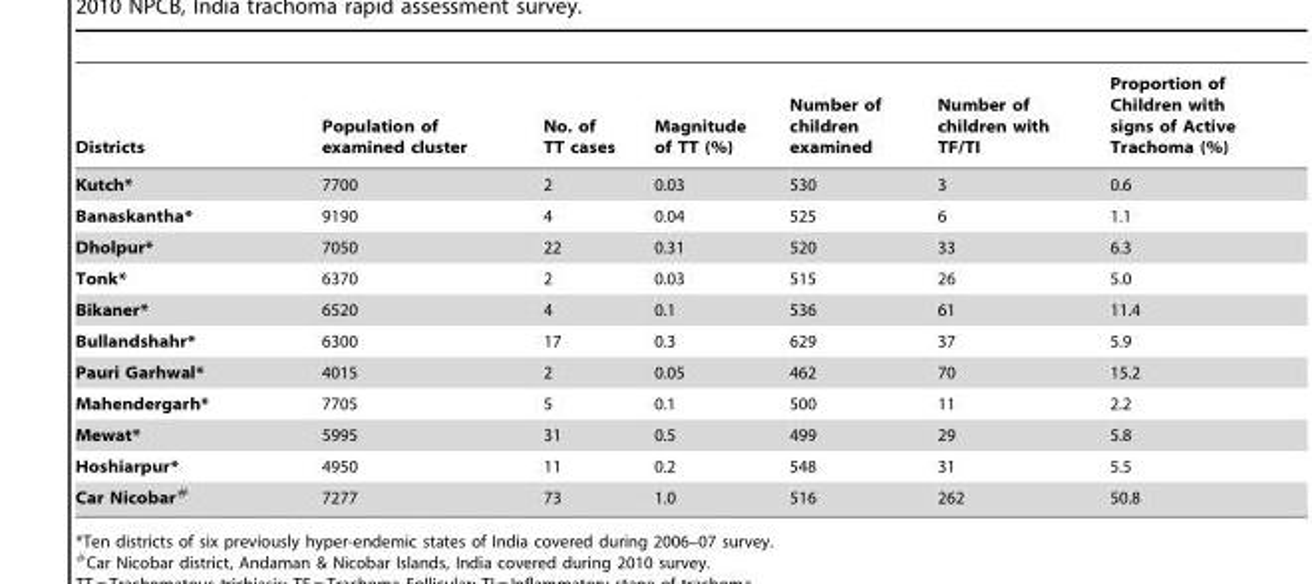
<table><thead><tr><td>Districts</td><td>Population of examined cluster</td><td>No. of TT cases</td><td>Magnitude of TT (%)</td><td>Number of children examined</td><td>Number of children with TF/TI</td><td>Proportion of Children with signs of Active Trachoma (%)</td></tr></thead><tbody><tr><td>Kutch*</td><td>7700</td><td>2</td><td>0.03</td><td>530</td><td>3</td><td>0.6</td></tr><tr><td>Banaskantha*</td><td>9190</td><td>4</td><td>0.04</td><td>525</td><td>6</td><td>1.1</td></tr><tr><td>Dholpur*</td><td>7050</td><td>22</td><td>0.31</td><td>520</td><td>33</td><td>6.3</td></tr><tr><td>Tonk*</td><td>6370</td><td>2</td><td>0.03</td><td>515</td><td>26</td><td>5.0</td></tr><tr><td>Bikaner*</td><td>6520</td><td>4</td><td>0.1</td><td>536</td><td>61</td><td>11.4</td></tr><tr><td>Bullandshahr*</td><td>6300</td><td>17</td><td>0.3</td><td>629</td><td>37</td><td>5.9</td></tr><tr><td>Pauri Garhwal*</td><td>4015</td><td>2</td><td>0.05</td><td>462</td><td>70</td><td>15.2</td></tr><tr><td>Mahendergarh*</td><td>7705</td><td>5</td><td>0.1</td><td>500</td><td>11</td><td>2.2</td></tr><tr><td>Mewat*</td><td>5995</td><td>31</td><td>0.5</td><td>499</td><td>29</td><td>5.8</td></tr><tr><td>Hoshiarpur*</td><td>4950</td><td>11</td><td>0.2</td><td>548</td><td>31</td><td>5.5</td></tr><tr><td>Car Nicobar#</td><td>7277</td><td>73</td><td>1.0</td><td>516</td><td>262</td><td>50.8</td></tr></tbody></table>